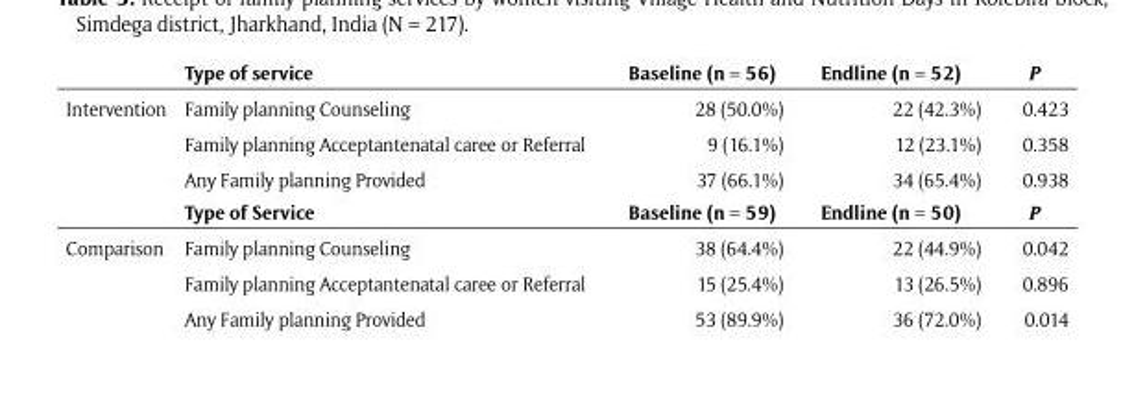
<table><thead><tr><td></td><td>Type of service</td><td>Baseline (n = 56)</td><td>Endline (n = 52)</td><td>P</td></tr></thead><tbody><tr><td rowspan="4">Intervention</td><td>Family planning Counseling</td><td>28 (50.0%)</td><td>22 (42.3%)</td><td>0.423</td></tr><tr><td>Family planning Acceptantenatal caree or Referral</td><td>9 (16.1%)</td><td>12 (23.1%)</td><td>0.358</td></tr><tr><td>Any Family planning Provided</td><td>37 (66.1%)</td><td>34 (65.4%)</td><td>0.938</td></tr><tr><td>Type of Service</td><td>Baseline (n = 59)</td><td>Endline (n = 50)</td><td>P</td></tr><tr><td rowspan="3">Comparison</td><td>Family planning Counseling</td><td>38 (64.4%)</td><td>22 (44.9%)</td><td>0.042</td></tr><tr><td>Family planning Acceptantenatal caree or Referral</td><td>15 (25.4%)</td><td>13 (26.5%)</td><td>0.896</td></tr><tr><td>Any Family planning Provided</td><td>53 (89.9%)</td><td>36 (72.0%)</td><td>0.014</td></tr></tbody></table>